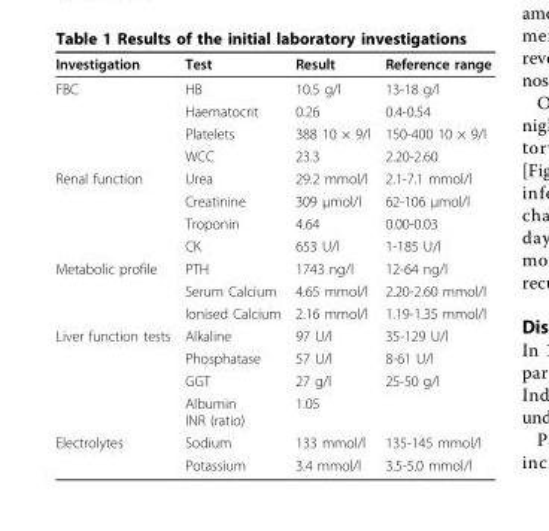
<table><thead><tr><td>Investigation</td><td>Test</td><td>Result</td><td>Reference range</td></tr></thead><tbody><tr><td rowspan="4">FBC</td><td>HB</td><td>10.5 g/l</td><td>13-18 g/l</td></tr><tr><td>Haematocrit</td><td>0.26</td><td>0.4-0.54</td></tr><tr><td>Platelets</td><td>388 10 × 9/l</td><td>150-400 10 × 9/l</td></tr><tr><td>WCC</td><td>23.3</td><td>2.20-2.60</td></tr><tr><td rowspan="4">Renal function</td><td>Urea</td><td>29.2 mmol/l</td><td>2.1-7.1 mmol/l</td></tr><tr><td>Creatinine</td><td>309 μmol/l</td><td>62-106 μmol/l</td></tr><tr><td>Troponin</td><td>4.64</td><td>0.00-0.03</td></tr><tr><td>CK</td><td>653 U/l</td><td>1-185 U/l</td></tr><tr><td rowspan="3">Metabolic profile</td><td>PTH</td><td>1743 ng/l</td><td>12-64 ng/l</td></tr><tr><td>Serum Calcium</td><td>4.65 mmol/l</td><td>2.20-2.60 mmol/l</td></tr><tr><td>Ionised Calcium</td><td>2.16 mmol/l</td><td>1.19-1.35 mmol/l</td></tr><tr><td rowspan="4">Liver function tests</td><td>Alkaline</td><td>97 U/l</td><td>35-129 U/l</td></tr><tr><td>Phosphatase</td><td>57 U/l</td><td>8-61 U/l</td></tr><tr><td>GGT</td><td>27 g/l</td><td>25-50 g/l</td></tr><tr><td>Albumin INR (ratio)</td><td>1.05</td><td></td></tr><tr><td rowspan="2">Electrolytes</td><td>Sodium</td><td>133 mmol/l</td><td>135-145 mmol/l</td></tr><tr><td>Potassium</td><td>3.4 mmol/l</td><td>3.5-5.0 mmol/l</td></tr></tbody></table>